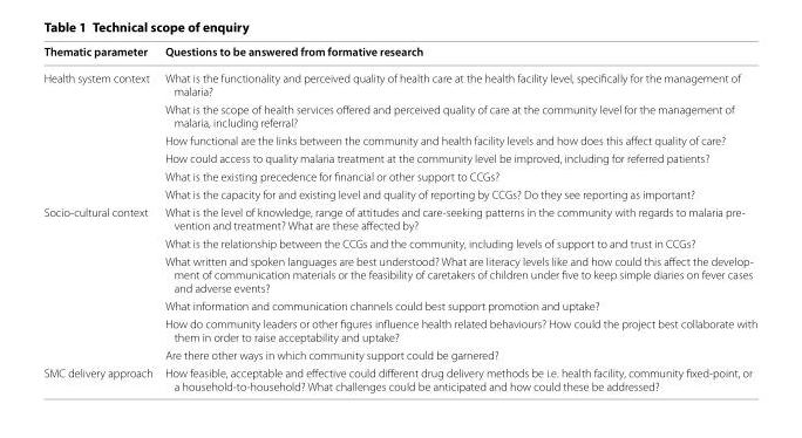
<table><thead><tr><td>Thematic parameter</td><td>Questions to be answered from formative research</td></tr></thead><tbody><tr><td rowspan="6">Health system context</td><td>What is the functionality and perceived quality of health care at the health facility level, specifically for the management of malaria?</td></tr><tr><td>What is the scope of health services offered and perceived quality of care at the community level for the management of malaria, including referral?</td></tr><tr><td>How functional are the links between the community and health facility levels and how does this affect quality of care?</td></tr><tr><td>How could access to quality malaria treatment at the community level be improved, including for referred patients?</td></tr><tr><td>What is the existing precedence for financial or other support to CCGs?</td></tr><tr><td>What is the capacity for and existing level and quality of reporting by CCGs? Do they see reporting as important?</td></tr><tr><td rowspan="6">Socio-cultural context</td><td>What is the level of knowledge, range of attitudes and care-seeking patterns in the community with regards to malaria pre- vention and treatment? What are these affected by?</td></tr><tr><td>What is the relationship between the CCGs and the community, including levels of support to and trust in CCGs?</td></tr><tr><td>What written and spoken languages are best understood? What are literacy levels like and how could this affect the develop- ment of communication materials or the feasibility of caretakers of children under five to keep simple diaries on fever cases and adverse events?</td></tr><tr><td>What information and communication channels could best support promotion and uptake?</td></tr><tr><td>How do community leaders or other figures influence health related behaviours? How could the project best collaborate with them in order to raise acceptability and uptake?</td></tr><tr><td>Are there other ways in which community support could be garnered?</td></tr><tr><td>SMC delivery approach</td><td>How feasible, acceptable and effective could different drug delivery methods be i.e. health facility, community fixed-point, or a household-to-household? What challenges could be anticipated and how could these be addressed?</td></tr></tbody></table>